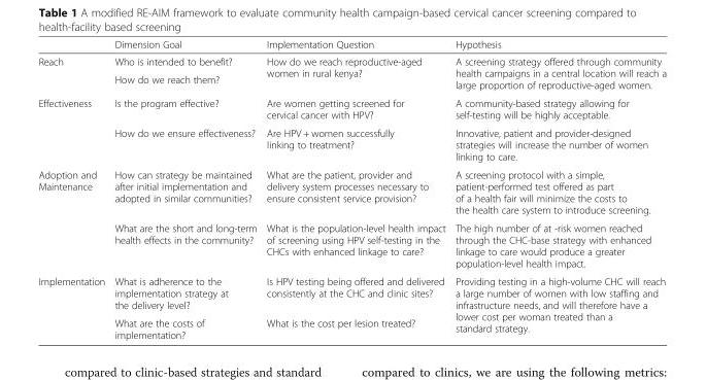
<table><thead><tr><td></td><td>Dimension Goal</td><td>Implementation Question</td><td>Hypothesis</td></tr></thead><tbody><tr><td rowspan="2">Reach</td><td>Who is intended to benefit?</td><td rowspan="2">How do we reach reproductive-aged women in rural kenya?</td><td rowspan="2">A screening strategy offered through community health campaigns in a central location will reach a large proportion of reproductive-aged women.</td></tr><tr><td>How do we reach them?</td></tr><tr><td rowspan="2">Effectiveness</td><td>Is the program effective?</td><td>Are women getting screened for cervical cancer with HPV?</td><td>A community-based strategy allowing for self-testing will be highly acceptable.</td></tr><tr><td>How do we ensure effectiveness?</td><td>Are HPV + women successfully linking to treatment?</td><td>Innovative, patient and provider-designed strategies will increase the number of women linking to care.</td></tr><tr><td rowspan="2">Adoption and Maintenance</td><td>How can strategy be maintained after initial implementation and adopted in similar communities?</td><td>What are the patient, provider and delivery system processes necessary to ensure consistent service provision?</td><td>A screening protocol with a simple, patient-performed test offered as part of a health fair will minimize the costs to the health care system to introduce screening.</td></tr><tr><td>What are the short and long-term health effects in the community?</td><td>What is the population-level health impact of screening using HPV self-testing in the CHCs with enhanced linkage to care?</td><td>The high number of at -risk women reached through the CHC-base strategy with enhanced linkage to care would produce a greater population-level health impact.</td></tr><tr><td rowspan="2">Implementation</td><td>What is adherence to the implementation strategy at the delivery level?</td><td>Is HPV testing being offered and delivered consistently at the CHC and clinic sites?</td><td rowspan="2">Providing testing in a high-volume CHC will reach a large number of women with low staffing and infrastructure needs, and will therefore have a lower cost per woman treated than a standard strategy.</td></tr><tr><td>What are the costs of implementation?</td><td>What is the cost per lesion treated?</td></tr></tbody></table>